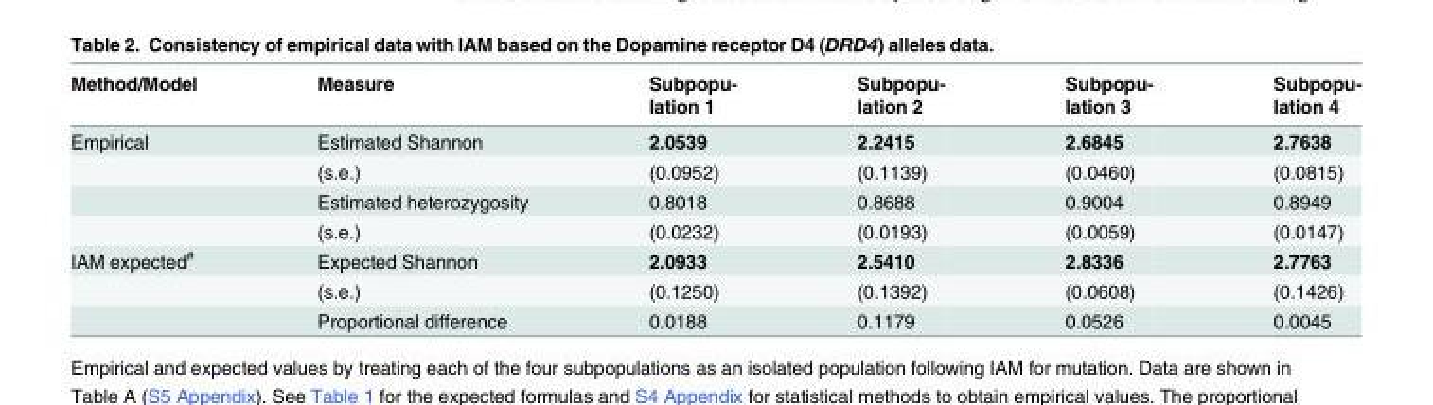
<table><thead><tr><td rowspan="2">Method/Model</td><td rowspan="2">Measure</td><td rowspan="2">Subpopu- lation 1</td><td rowspan="2">Subpopu- lation 2</td><td rowspan="2">Subpopu- lation 3</td><td rowspan="2">Subpopu- lation 4</td></tr><tr></tr></thead><tbody><tr><td rowspan="4">Empirical</td><td>Estimated Shannon</td><td>2.0539</td><td>2.2415</td><td>2.6845</td><td>2.7638</td></tr><tr><td>(s.e.)</td><td>(0.0952)</td><td>(0.1139)</td><td>(0.0460)</td><td>(0.0815)</td></tr><tr><td>Estimated heterozygosity</td><td>0.8018</td><td>0.8688</td><td>0.9004</td><td>0.8949</td></tr><tr><td>(s.e.)</td><td>(0.0232)</td><td>(0.0193)</td><td>(0.0059)</td><td>(0.0147)</td></tr><tr><td rowspan="3">IAM expected<sup>#</sup></td><td>Expected Shannon</td><td>2.0933</td><td>2.5410</td><td>2.8336</td><td>2.7763</td></tr><tr><td>(s.e.)</td><td>(0.1250)</td><td>(0.1392)</td><td>(0.0608)</td><td>(0.1426)</td></tr><tr><td>Proportional difference</td><td>0.0188</td><td>0.1179</td><td>0.0526</td><td>0.0045</td></tr></tbody></table>